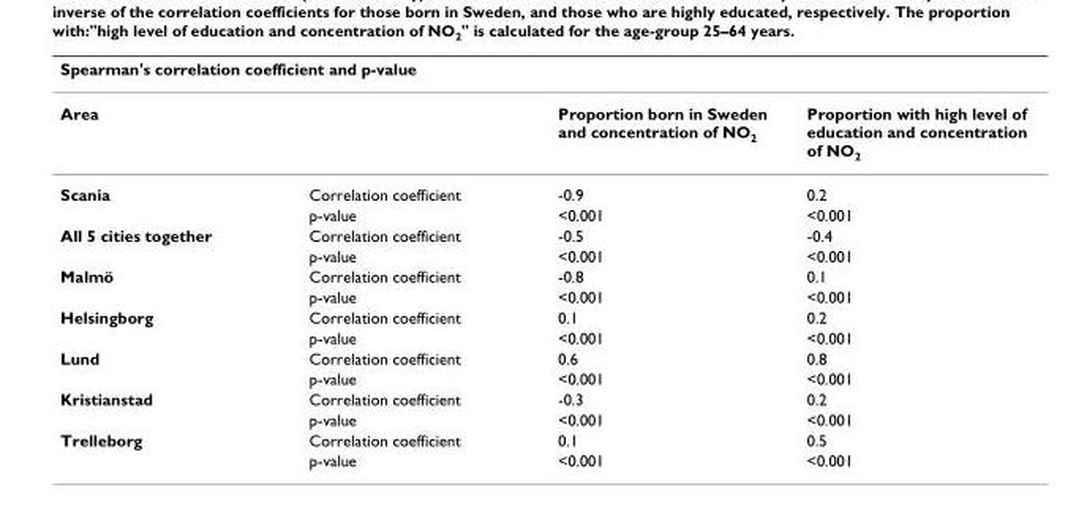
<table><thead><tr><td colspan="4">Spearman&#x27;s correlation coefficient and p-value</td></tr><tr><td colspan="2">Area</td><td rowspan="2">Proportion born in Sweden and concentration of NO2 -0.9</td><td rowspan="2">Proportion with high level of education and concentration of NO2 0.2</td></tr><tr><td>Scania</td><td>Correlation coefficient</td></tr></thead><tbody><tr><td></td><td>p-value</td><td>&lt;0.001</td><td>&lt;0.001</td></tr><tr><td rowspan="2">All 5 cities together</td><td>Correlation coefficient</td><td>-0.5</td><td>-0.4</td></tr><tr><td>p-value</td><td>&lt;0.001</td><td>&lt;0.001</td></tr><tr><td rowspan="2">Malmö</td><td>Correlation coefficient</td><td>-0.8</td><td>0.1</td></tr><tr><td>p-value</td><td>&lt;0.001</td><td>&lt;0.001</td></tr><tr><td rowspan="2">Helsingborg</td><td>Correlation coefficient</td><td>0.1</td><td>0.2</td></tr><tr><td>p-value</td><td>&lt;0.001</td><td>&lt;0.001</td></tr><tr><td rowspan="2">Lund</td><td>Correlation coefficient</td><td>0.6</td><td>0.8</td></tr><tr><td>p-value</td><td>&lt;0.001</td><td>&lt;0.001</td></tr><tr><td rowspan="2">Kristianstad</td><td>Correlation coefficient</td><td>-0.3</td><td>0.2</td></tr><tr><td>p-value</td><td>&lt;0.001</td><td>&lt;0.001</td></tr><tr><td rowspan="2">Trelleborg</td><td>Correlation coefficient</td><td>0.1</td><td>0.5</td></tr><tr><td>p-value</td><td>&lt;0.001</td><td>&lt;0.001</td></tr></tbody></table>